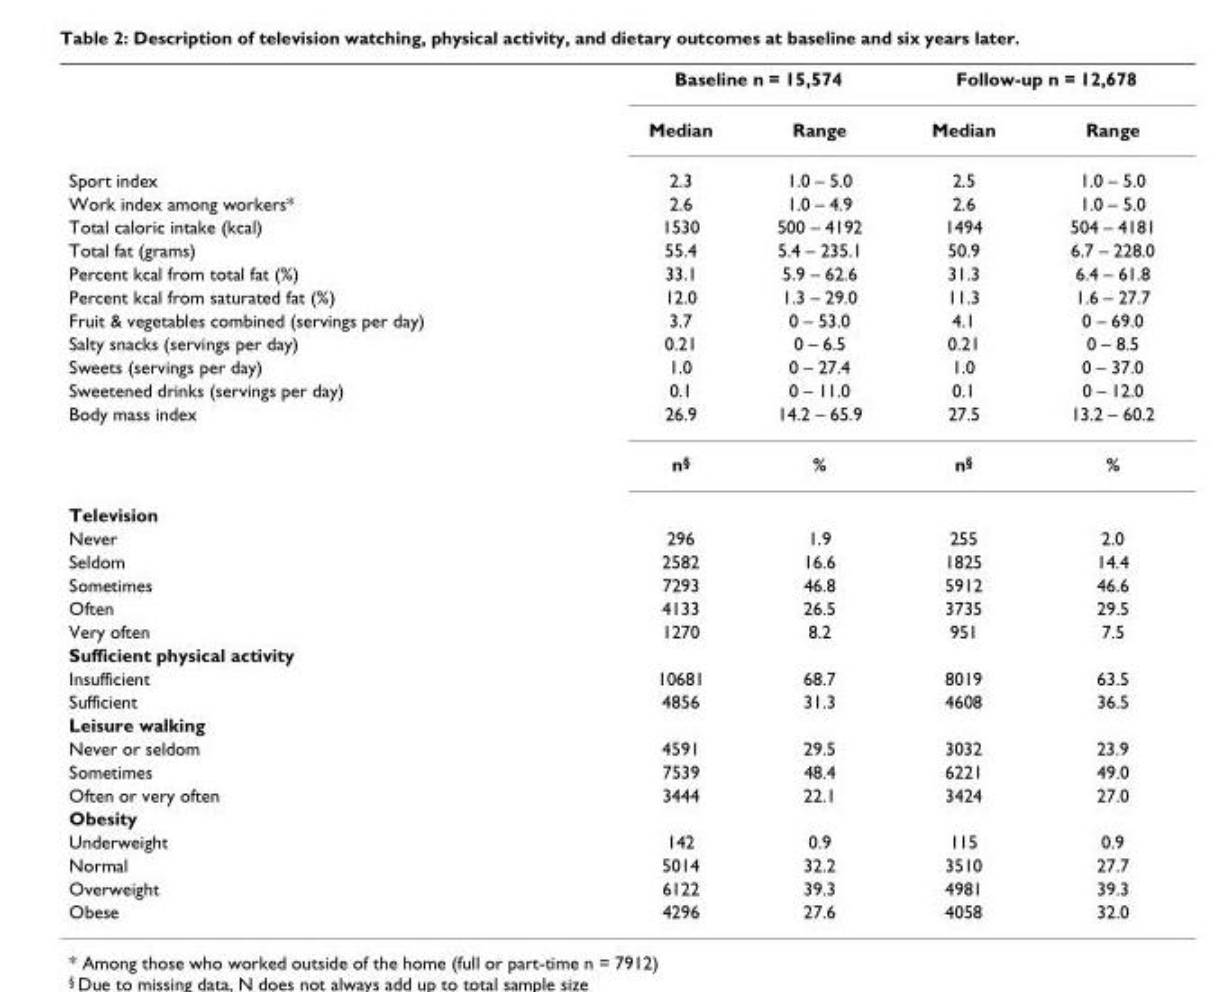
<table><thead><tr><td rowspan="2"></td><td colspan="2">Baseline n = 15,574</td><td colspan="2">Follow-up n = 12,678</td></tr><tr><td>Median</td><td>Range</td><td>Median</td><td>Range</td></tr></thead><tbody><tr><td>Sport index</td><td>2.3</td><td>1.0 – 5.0</td><td>2.5</td><td>1.0 – 5.0</td></tr><tr><td>Work index among workers*</td><td>2.6</td><td>1.0 – 4.9</td><td>2.6</td><td>1.0 – 5.0</td></tr><tr><td>Total caloric intake (kcal)</td><td>1530</td><td>500 – 4192</td><td>1494</td><td>504 – 4181</td></tr><tr><td>Total fat (grams)</td><td>55.4</td><td>5.4 – 235.1</td><td>50.9</td><td>6.7 – 228.0</td></tr><tr><td>Percent kcal from total fat (%)</td><td>33.1</td><td>5.9 – 62.6</td><td>31.3</td><td>6.4 – 61.8</td></tr><tr><td>Percent kcal from saturated fat (%)</td><td>12.0</td><td>1.3 – 29.0</td><td>11.3</td><td>1.6 – 27.7</td></tr><tr><td>Fruit &amp; vegetables combined (servings per day)</td><td>3.7</td><td>0 – 53.0</td><td>4.1</td><td>0 – 69.0</td></tr><tr><td>Salty snacks (servings per day)</td><td>0.21</td><td>0 – 6.5</td><td>0.21</td><td>0 – 8.5</td></tr><tr><td>Sweets (servings per day)</td><td>1.0</td><td>0 – 27.4</td><td>1.0</td><td>0 – 37.0</td></tr><tr><td>Sweetened drinks (servings per day)</td><td>0.1</td><td>0 – 11.0</td><td>0.1</td><td>0 – 12.0</td></tr><tr><td rowspan="2">Body mass index</td><td>26.9</td><td>14.2 – 65.9</td><td>27.5</td><td>13.2 – 60.2</td></tr><tr><td>n<sup>§</sup></td><td>%</td><td>n<sup>§</sup></td><td>%</td></tr><tr><td colspan="5">Television</td></tr><tr><td>Never</td><td>296</td><td>1.9</td><td>255</td><td>2.0</td></tr><tr><td>Seldom</td><td>2582</td><td>16.6</td><td>1825</td><td>14.4</td></tr><tr><td>Sometimes</td><td>7293</td><td>46.8</td><td>5912</td><td>46.6</td></tr><tr><td>Often</td><td>4133</td><td>26.5</td><td>3735</td><td>29.5</td></tr><tr><td>Very often</td><td>1270</td><td>8.2</td><td>951</td><td>7.5</td></tr><tr><td colspan="5">Sufficient physical activity</td></tr><tr><td>Insufficient</td><td>10681</td><td>68.7</td><td>8019</td><td>63.5</td></tr><tr><td>Sufficient</td><td>4856</td><td>31.3</td><td>4608</td><td>36.5</td></tr><tr><td colspan="5">Leisure walking</td></tr><tr><td>Never or seldom</td><td>4591</td><td>29.5</td><td>3032</td><td>23.9</td></tr><tr><td>Sometimes</td><td>7539</td><td>48.4</td><td>6221</td><td>49.0</td></tr><tr><td>Often or very often</td><td>3444</td><td>22.1</td><td>3424</td><td>27.0</td></tr><tr><td colspan="5">Obesity</td></tr><tr><td>Underweight</td><td>142</td><td>0.9</td><td>115</td><td>0.9</td></tr><tr><td>Normal</td><td>5014</td><td>32.2</td><td>3510</td><td>27.7</td></tr><tr><td>Overweight</td><td>6122</td><td>39.3</td><td>4981</td><td>39.3</td></tr><tr><td>Obese</td><td>4296</td><td>27.6</td><td>4058</td><td>32.0</td></tr></tbody></table>